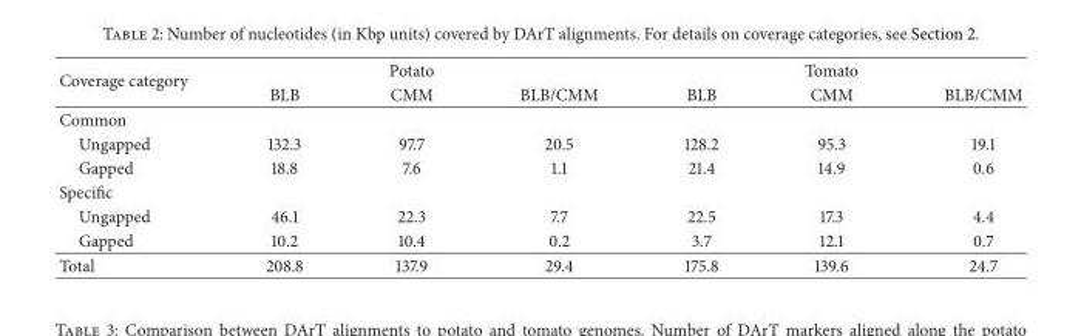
<table><thead><tr><td rowspan="2">Coverage category</td><td rowspan="2">BLB</td><td rowspan="2">Potato CMM</td><td rowspan="2">BLB/CMM</td><td rowspan="2">BLB</td><td rowspan="2">Tomato CMM</td><td rowspan="2">BLB/CMM</td></tr><tr></tr></thead><tbody><tr><td colspan="7">Common</td></tr><tr><td>Ungapped</td><td>132.3</td><td>97.7</td><td>20.5</td><td>128.2</td><td>95.3</td><td>19.1</td></tr><tr><td>Gapped</td><td>18.8</td><td>7.6</td><td>1.1</td><td>21.4</td><td>14.9</td><td>0.6</td></tr><tr><td colspan="7">Specific</td></tr><tr><td>Ungapped</td><td>46.1</td><td>22.3</td><td>7.7</td><td>22.5</td><td>17.3</td><td>4.4</td></tr><tr><td>Gapped</td><td>10.2</td><td>10.4</td><td>0.2</td><td>3.7</td><td>12.1</td><td>0.7</td></tr><tr><td>Total</td><td>208.8</td><td>137.9</td><td>29.4</td><td>175.8</td><td>139.6</td><td>24.7</td></tr></tbody></table>